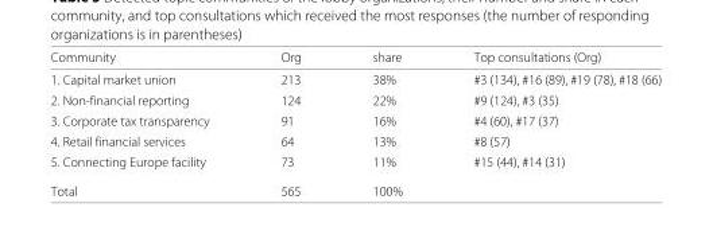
<table><thead><tr><td>Community</td><td>Org</td><td>share</td><td>Top consultations (Org)</td></tr></thead><tbody><tr><td>1. Capital market union</td><td>213</td><td>38%</td><td>#3 (134), #16 (89), #19 (78), #18 (66)</td></tr><tr><td>2. Non-financial reporting</td><td>124</td><td>22%</td><td>#9 (124), #3 (35)</td></tr><tr><td>3. Corporate tax transparency</td><td>91</td><td>16%</td><td>#4 (60), #17 (37)</td></tr><tr><td>4. Retail financial services</td><td>64</td><td>13%</td><td>#8 (57)</td></tr><tr><td>5. Connecting Europe facility</td><td>73</td><td>11%</td><td>#15 (44), #14 (31)</td></tr><tr><td>Total</td><td>565</td><td>100%</td><td></td></tr></tbody></table>